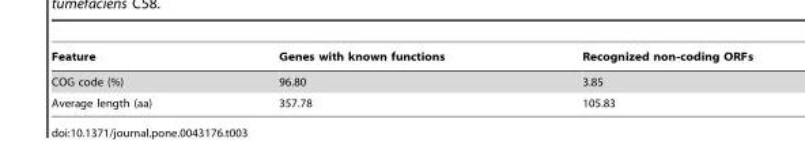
<table><thead><tr><td>Feature</td><td>Genes with known functions</td><td>Recognized non-coding ORFs</td></tr></thead><tbody><tr><td>COG code (%)</td><td>96.80</td><td>3.85</td></tr><tr><td>Average length (aa)</td><td>357.78</td><td>105.83</td></tr></tbody></table>